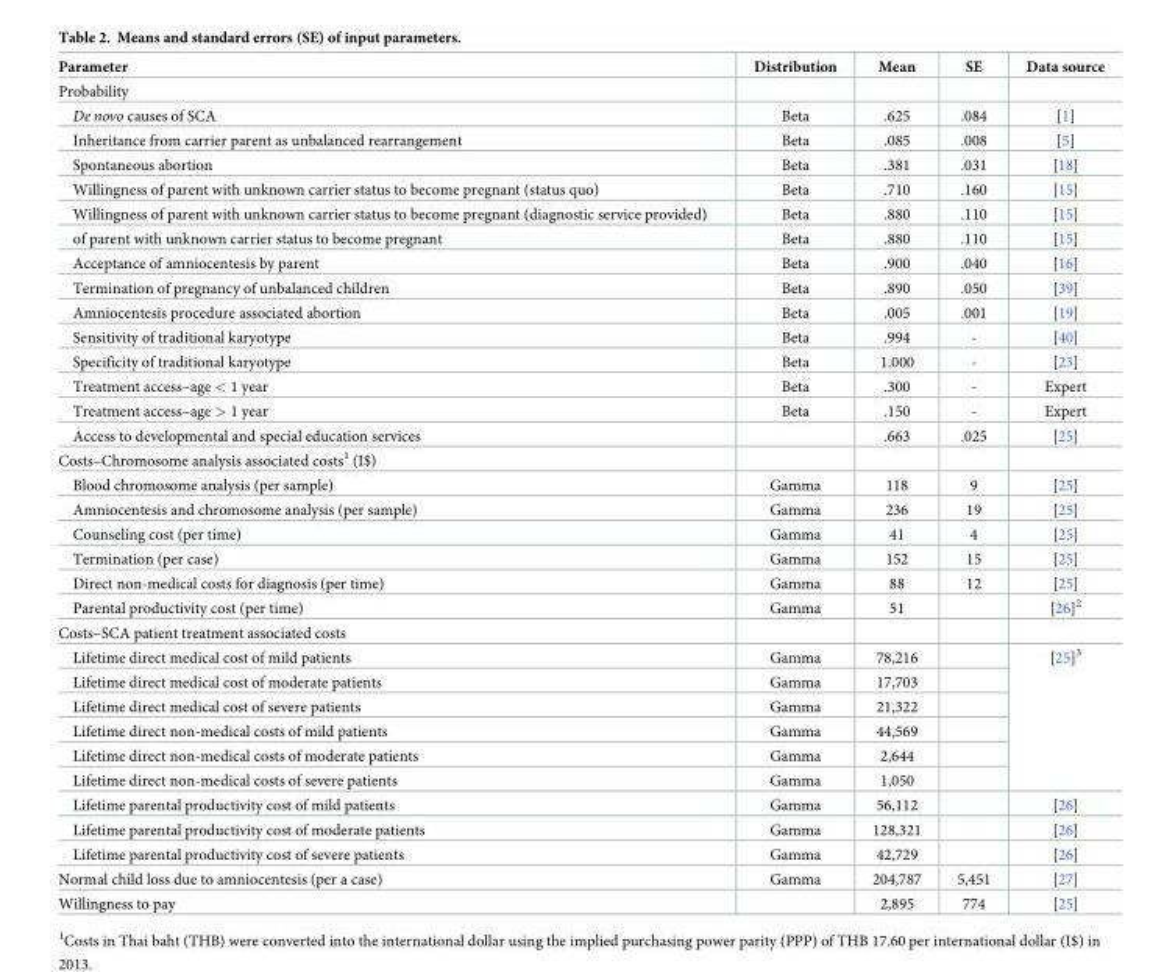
<table><thead><tr><td>Parameter</td><td>Distribution</td><td>Mean</td><td>SE</td><td>Data source</td></tr></thead><tbody><tr><td colspan="5">Probability</td></tr><tr><td>De novo causes of SCA</td><td>Beta</td><td>.625</td><td>.084</td><td>[1]</td></tr><tr><td>Inheritance from carrier parent as unbalanced rearrangement</td><td>Beta</td><td>.085</td><td>.008</td><td>[5]</td></tr><tr><td>Spontaneous abortion</td><td>Beta</td><td>.381</td><td>.031</td><td>[18]</td></tr><tr><td>Willingness of parent with unknown carrier status to become pregnant (status quo)</td><td>Beta</td><td>.710</td><td>.160</td><td>[15]</td></tr><tr><td>Willingness of parent with unknown carrier status to become pregnant (diagnostic service provided)</td><td>Beta</td><td>.880</td><td>.110</td><td>[15]</td></tr><tr><td>of parent with unknown carrier status to become pregnant</td><td>Beta</td><td>.880</td><td>.110</td><td>[15]</td></tr><tr><td>Acceptance of amniocentesis by parent</td><td>Beta</td><td>.900</td><td>.040</td><td>[16]</td></tr><tr><td>Termination of pregnancy of unbalanced children</td><td>Beta</td><td>.890</td><td>.050</td><td>[39]</td></tr><tr><td>Amniocentesis procedure associated abortion</td><td>Beta</td><td>.005</td><td>.001</td><td>[19]</td></tr><tr><td>Sensitivity of traditional karyotype</td><td>Beta</td><td>.994</td><td>-</td><td>[40]</td></tr><tr><td>Specificity of traditional karyotype</td><td>Beta</td><td>1.000</td><td>-</td><td>[23]</td></tr><tr><td>Treatment access–age &lt; 1 year</td><td>Beta</td><td>.300</td><td>-</td><td>Expert</td></tr><tr><td>Treatment access–age &gt; 1 year</td><td>Beta</td><td>.150</td><td>-</td><td>Expert</td></tr><tr><td>Access to developmental and special education services</td><td></td><td>.663</td><td>.025</td><td>[25]</td></tr><tr><td colspan="5">Costs–Chromosome analysis associated costs<sup>1</sup> (I$)</td></tr><tr><td>Blood chromosome analysis (per sample)</td><td>Gamma</td><td>118</td><td>9</td><td>[25]</td></tr><tr><td>Amniocentesis and chromosome analysis (per sample)</td><td>Gamma</td><td>236</td><td>19</td><td>[25]</td></tr><tr><td>Counseling cost (per time)</td><td>Gamma</td><td>41</td><td>4</td><td>[25]</td></tr><tr><td>Termination (per case)</td><td>Gamma</td><td>152</td><td>15</td><td>[25]</td></tr><tr><td>Direct non-medical costs for diagnosis (per time)</td><td>Gamma</td><td>88</td><td>12</td><td>[25]</td></tr><tr><td>Parental productivity cost (per time)</td><td>Gamma</td><td>51</td><td></td><td>[26]<sup>2</sup></td></tr><tr><td colspan="5">Costs–SCA patient treatment associated costs</td></tr><tr><td>Lifetime direct medical cost of mild patients</td><td>Gamma</td><td>78,216</td><td></td><td rowspan="6">[25]<sup>3</sup></td></tr><tr><td>Lifetime direct medical cost of moderate patients</td><td>Gamma</td><td>17,703</td><td></td></tr><tr><td>Lifetime direct medical cost of severe patients</td><td>Gamma</td><td>21,322</td><td></td></tr><tr><td>Lifetime direct non-medical costs of mild patients</td><td>Gamma</td><td>44,569</td><td></td></tr><tr><td>Lifetime direct non-medical costs of moderate patients</td><td>Gamma</td><td>2,644</td><td></td></tr><tr><td>Lifetime direct non-medical costs of severe patients</td><td>Gamma</td><td>1,050</td><td></td></tr><tr><td>Lifetime parental productivity cost of mild patients</td><td>Gamma</td><td>56,112</td><td></td><td>[26]</td></tr><tr><td>Lifetime parental productivity cost of moderate patients</td><td>Gamma</td><td>128,321</td><td></td><td>[26]</td></tr><tr><td>Lifetime parental productivity cost of severe patients</td><td>Gamma</td><td>42,729</td><td></td><td>[26]</td></tr><tr><td>Normal child loss due to amniocentesis (per a case)</td><td>Gamma</td><td>204,787</td><td>5,451</td><td>[27]</td></tr><tr><td>Willingness to pay</td><td></td><td>2,895</td><td>774</td><td>[25]</td></tr></tbody></table>